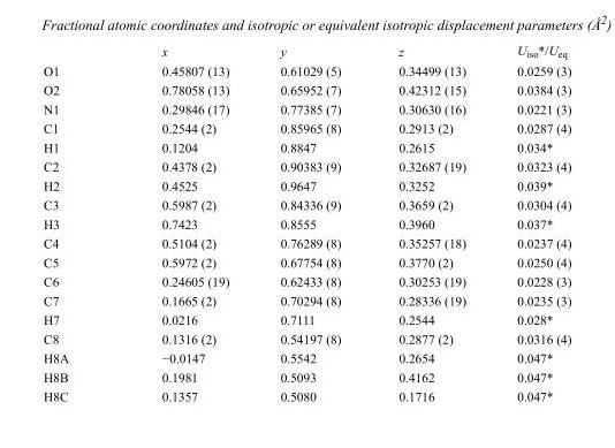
<table><thead><tr><td></td><td>x</td><td>y</td><td>z</td><td>U<sub>iso</sub>*/U<sub>eq</sub></td></tr></thead><tbody><tr><td>O1</td><td>0.45807 (13)</td><td>0.61029 (5)</td><td>0.34499 (13)</td><td>0.0259 (3)</td></tr><tr><td>O2</td><td>0.78058 (13)</td><td>0.65952 (7)</td><td>0.42312 (15)</td><td>0.0384 (3)</td></tr><tr><td>N1</td><td>0.29846 (17)</td><td>0.77385 (7)</td><td>0.30630 (16)</td><td>0.0221 (3)</td></tr><tr><td>C1</td><td>0.2544 (2)</td><td>0.85965 (8)</td><td>0.2913 (2)</td><td>0.0287 (4)</td></tr><tr><td>H1</td><td>0.1204</td><td>0.8847</td><td>0.2615</td><td>0.034*</td></tr><tr><td>C2</td><td>0.4378 (2)</td><td>0.90383 (9)</td><td>0.32687 (19)</td><td>0.0323 (4)</td></tr><tr><td>H2</td><td>0.4525</td><td>0.9647</td><td>0.3252</td><td>0.039*</td></tr><tr><td>C3</td><td>0.5987 (2)</td><td>0.84336 (9)</td><td>0.3659 (2)</td><td>0.0304 (4)</td></tr><tr><td>H3</td><td>0.7423</td><td>0.8555</td><td>0.3960</td><td>0.037*</td></tr><tr><td>C4</td><td>0.5104 (2)</td><td>0.76289 (8)</td><td>0.35257 (18)</td><td>0.0237 (4)</td></tr><tr><td>C5</td><td>0.5972 (2)</td><td>0.67754 (8)</td><td>0.3770 (2)</td><td>0.0250 (4)</td></tr><tr><td>C6</td><td>0.24605 (19)</td><td>0.62433 (8)</td><td>0.30253 (19)</td><td>0.0228 (3)</td></tr><tr><td>C7</td><td>0.1665 (2)</td><td>0.70294 (8)</td><td>0.28336 (19)</td><td>0.0235 (3)</td></tr><tr><td>H7</td><td>0.0216</td><td>0.7111</td><td>0.2544</td><td>0.028*</td></tr><tr><td>C8</td><td>0.1316 (2)</td><td>0.54197 (8)</td><td>0.2877 (2)</td><td>0.0316 (4)</td></tr><tr><td>H8A</td><td>−0.0147</td><td>0.5542</td><td>0.2654</td><td>0.047*</td></tr><tr><td>H8B</td><td>0.1981</td><td>0.5093</td><td>0.4162</td><td>0.047*</td></tr><tr><td>H8C</td><td>0.1357</td><td>0.5080</td><td>0.1716</td><td>0.047*</td></tr></tbody></table>